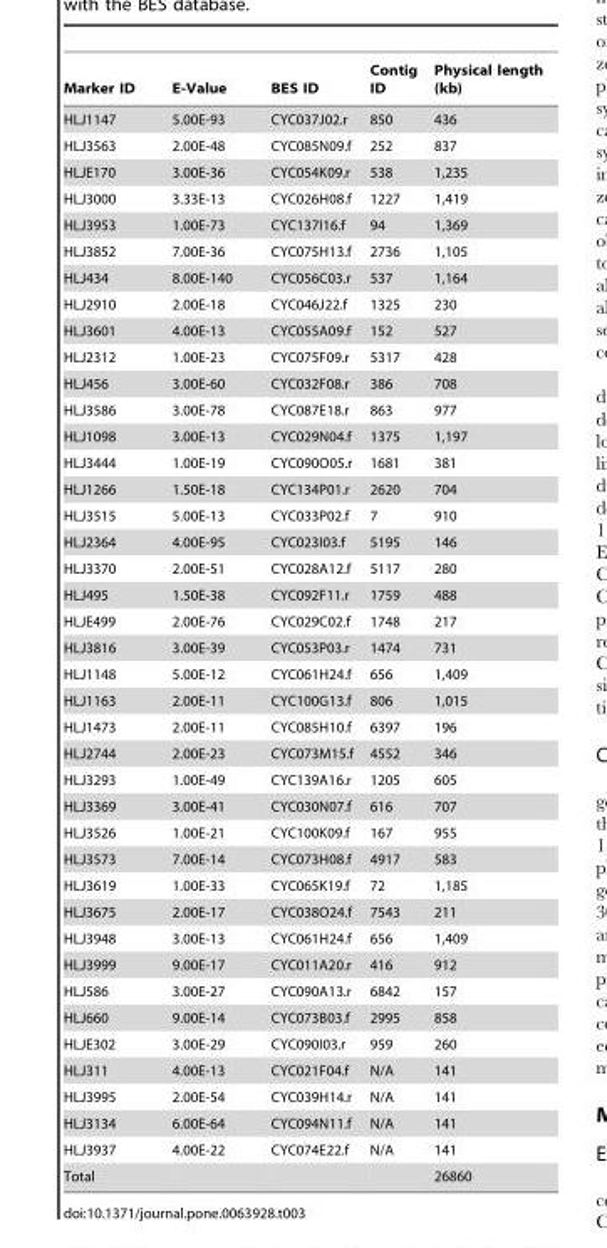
<table><thead><tr><td>Marker ID</td><td>E-Value</td><td>BES ID</td><td>Contig ID</td><td>Physical length (kb)</td></tr></thead><tbody><tr><td>HLJ1147</td><td>5.00E-93</td><td>CYC037J02.r</td><td>850</td><td>436</td></tr><tr><td>HLJ3563</td><td>2.00E-48</td><td>CYC085N09.f</td><td>252</td><td>837</td></tr><tr><td>HLJE170</td><td>3.00E-36</td><td>CYC054K09.r</td><td>538</td><td>1,235</td></tr><tr><td>HLJ3000</td><td>3.33E-13</td><td>CYC026H08.f</td><td>1227</td><td>1,419</td></tr><tr><td>HLJ3953</td><td>1.00E-73</td><td>CYC137I16.f</td><td>94</td><td>1,369</td></tr><tr><td>HLJ3852</td><td>7.00E-36</td><td>CYC075H13.f</td><td>2736</td><td>1,105</td></tr><tr><td>HLJ434</td><td>8.00E-140</td><td>CYC056C03.r</td><td>537</td><td>1,164</td></tr><tr><td>HLJ2910</td><td>2.00E-18</td><td>CYC046J22.f</td><td>1325</td><td>230</td></tr><tr><td>HLJ3601</td><td>4.00E-13</td><td>CYC055A09.f</td><td>152</td><td>527</td></tr><tr><td>HLJ2312</td><td>1.00E-23</td><td>CYC075F09.r</td><td>5317</td><td>428</td></tr><tr><td>HLJ456</td><td>3.00E-60</td><td>CYC032F08.r</td><td>386</td><td>708</td></tr><tr><td>HLJ3586</td><td>3.00E-78</td><td>CYC087E18.r</td><td>863</td><td>977</td></tr><tr><td>HLJ1098</td><td>3.00E-13</td><td>CYC029N04.f</td><td>1375</td><td>1,197</td></tr><tr><td>HLJ3444</td><td>1.00E-19</td><td>CYC090O05.r</td><td>1681</td><td>381</td></tr><tr><td>HLJ1266</td><td>1.50E-18</td><td>CYC134P01.r</td><td>2620</td><td>704</td></tr><tr><td>HLJ3515</td><td>5.00E-13</td><td>CYC033P02.f</td><td>7</td><td>910</td></tr><tr><td>HLJ2364</td><td>4.00E-95</td><td>CYC023I03.f</td><td>5195</td><td>146</td></tr><tr><td>HLJ3370</td><td>2.00E-51</td><td>CYC028A12.f</td><td>5117</td><td>280</td></tr><tr><td>HLJ495</td><td>1.50E-38</td><td>CYC092F11.r</td><td>1759</td><td>488</td></tr><tr><td>HLJE499</td><td>2.00E-76</td><td>CYC029C02.f</td><td>1748</td><td>217</td></tr><tr><td>HLJ3816</td><td>3.00E-39</td><td>CYC053P03.r</td><td>1474</td><td>731</td></tr><tr><td>HLJ1148</td><td>5.00E-12</td><td>CYC061H24.f</td><td>656</td><td>1,409</td></tr><tr><td>HLJ1163</td><td>2.00E-11</td><td>CYC100G13.f</td><td>806</td><td>1,015</td></tr><tr><td>HLJ1473</td><td>2.00E-11</td><td>CYC085H10.f</td><td>6397</td><td>196</td></tr><tr><td>HLJ2744</td><td>2.00E-23</td><td>CYC073M15.f</td><td>4552</td><td>346</td></tr><tr><td>HLJ3293</td><td>1.00E-49</td><td>CYC139A16.r</td><td>1205</td><td>605</td></tr><tr><td>HLJ3369</td><td>3.00E-41</td><td>CYC030N07.f</td><td>616</td><td>707</td></tr><tr><td>HLJ3526</td><td>1.00E-21</td><td>CYC100K09.f</td><td>167</td><td>955</td></tr><tr><td>HLJ3573</td><td>7.00E-14</td><td>CYC073H08.f</td><td>4917</td><td>583</td></tr><tr><td>HLJ3619</td><td>1.00E-33</td><td>CYC065K19.f</td><td>72</td><td>1,185</td></tr><tr><td>HLJ3675</td><td>2.00E-17</td><td>CYC038O24.f</td><td>7543</td><td>211</td></tr><tr><td>HLJ3948</td><td>3.00E-13</td><td>CYC061H24.f</td><td>656</td><td>1,409</td></tr><tr><td>HLJ3999</td><td>9.00E-17</td><td>CYC011A20.r</td><td>416</td><td>912</td></tr><tr><td>HLJ586</td><td>3.00E-27</td><td>CYC090A13.r</td><td>6842</td><td>157</td></tr><tr><td>HLJ660</td><td>9.00E-14</td><td>CYC073B03.f</td><td>2995</td><td>858</td></tr><tr><td>HLJE302</td><td>3.00E-29</td><td>CYC090I03.r</td><td>959</td><td>260</td></tr><tr><td>HLJ311</td><td>4.00E-13</td><td>CYC021F04.f</td><td>N/A</td><td>141</td></tr><tr><td>HLJ3995</td><td>2.00E-54</td><td>CYC039H14.r</td><td>N/A</td><td>141</td></tr><tr><td>HLJ3134</td><td>6.00E-64</td><td>CYC094N11.f</td><td>N/A</td><td>141</td></tr><tr><td>HLJ3937</td><td>4.00E-22</td><td>CYC074E22.f</td><td>N/A</td><td>141</td></tr><tr><td>Total</td><td></td><td></td><td></td><td>26860</td></tr></tbody></table>